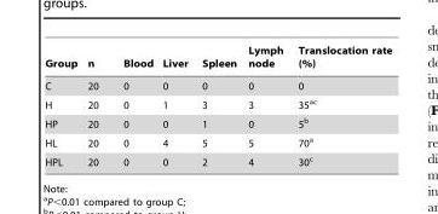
<table><thead><tr><td>Group</td><td>n</td><td>Blood</td><td>Liver</td><td>Spleen</td><td>Lymph node</td><td>Translocation rate (%)</td></tr></thead><tbody><tr><td>C</td><td>20</td><td>0</td><td>0</td><td>0</td><td>0</td><td>0</td></tr><tr><td>H</td><td>20</td><td>0</td><td>1</td><td>3</td><td>3</td><td>35<sup>ac</sup></td></tr><tr><td>HP</td><td>20</td><td>0</td><td>0</td><td>1</td><td>0</td><td>5<sup>b</sup></td></tr><tr><td>HL</td><td>20</td><td>0</td><td>4</td><td>5</td><td>5</td><td>70<sup>a</sup></td></tr><tr><td>HPL</td><td>20</td><td>0</td><td>0</td><td>2</td><td>4</td><td>30<sup>c</sup></td></tr></tbody></table>